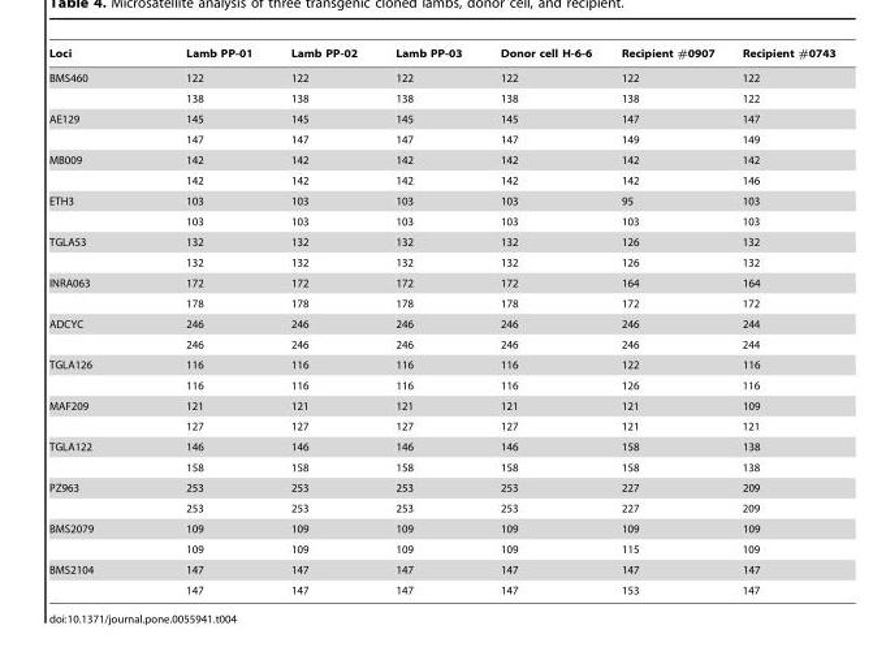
<table><thead><tr><td>Loci</td><td>Lamb PP-01</td><td>Lamb PP-02</td><td>Lamb PP-03</td><td>Donor cell H-6-6</td><td>Recipient #0907</td><td>Recipient #0743</td></tr></thead><tbody><tr><td rowspan="2">BMS460</td><td>122</td><td>122</td><td>122</td><td>122</td><td>122</td><td>122</td></tr><tr><td>138</td><td>138</td><td>138</td><td>138</td><td>138</td><td>122</td></tr><tr><td rowspan="2">AE129</td><td>145</td><td>145</td><td>145</td><td>145</td><td>147</td><td>147</td></tr><tr><td>147</td><td>147</td><td>147</td><td>147</td><td>149</td><td>149</td></tr><tr><td rowspan="2">MB009</td><td>142</td><td>142</td><td>142</td><td>142</td><td>142</td><td>142</td></tr><tr><td>142</td><td>142</td><td>142</td><td>142</td><td>142</td><td>146</td></tr><tr><td rowspan="2">ETH3</td><td>103</td><td>103</td><td>103</td><td>103</td><td>95</td><td>103</td></tr><tr><td>103</td><td>103</td><td>103</td><td>103</td><td>103</td><td>103</td></tr><tr><td rowspan="2">TGLA53</td><td>132</td><td>132</td><td>132</td><td>132</td><td>126</td><td>132</td></tr><tr><td>132</td><td>132</td><td>132</td><td>132</td><td>126</td><td>132</td></tr><tr><td rowspan="2">INRA063</td><td>172</td><td>172</td><td>172</td><td>172</td><td>164</td><td>164</td></tr><tr><td>178</td><td>178</td><td>178</td><td>178</td><td>172</td><td>172</td></tr><tr><td rowspan="2">ADCYC</td><td>246</td><td>246</td><td>246</td><td>246</td><td>246</td><td>244</td></tr><tr><td>246</td><td>246</td><td>246</td><td>246</td><td>246</td><td>244</td></tr><tr><td rowspan="2">TGLA126</td><td>116</td><td>116</td><td>116</td><td>116</td><td>122</td><td>116</td></tr><tr><td>116</td><td>116</td><td>116</td><td>116</td><td>126</td><td>116</td></tr><tr><td rowspan="2">MAF209</td><td>121</td><td>121</td><td>121</td><td>121</td><td>121</td><td>109</td></tr><tr><td>127</td><td>127</td><td>127</td><td>127</td><td>121</td><td>121</td></tr><tr><td rowspan="2">TGLA122</td><td>146</td><td>146</td><td>146</td><td>146</td><td>158</td><td>138</td></tr><tr><td>158</td><td>158</td><td>158</td><td>158</td><td>158</td><td>138</td></tr><tr><td rowspan="2">PZ963</td><td>253</td><td>253</td><td>253</td><td>253</td><td>227</td><td>209</td></tr><tr><td>253</td><td>253</td><td>253</td><td>253</td><td>227</td><td>209</td></tr><tr><td rowspan="2">BMS2079</td><td>109</td><td>109</td><td>109</td><td>109</td><td>109</td><td>109</td></tr><tr><td>109</td><td>109</td><td>109</td><td>109</td><td>115</td><td>109</td></tr><tr><td rowspan="2">BMS2104</td><td>147</td><td>147</td><td>147</td><td>147</td><td>147</td><td>147</td></tr><tr><td>147</td><td>147</td><td>147</td><td>147</td><td>153</td><td>147</td></tr></tbody></table>